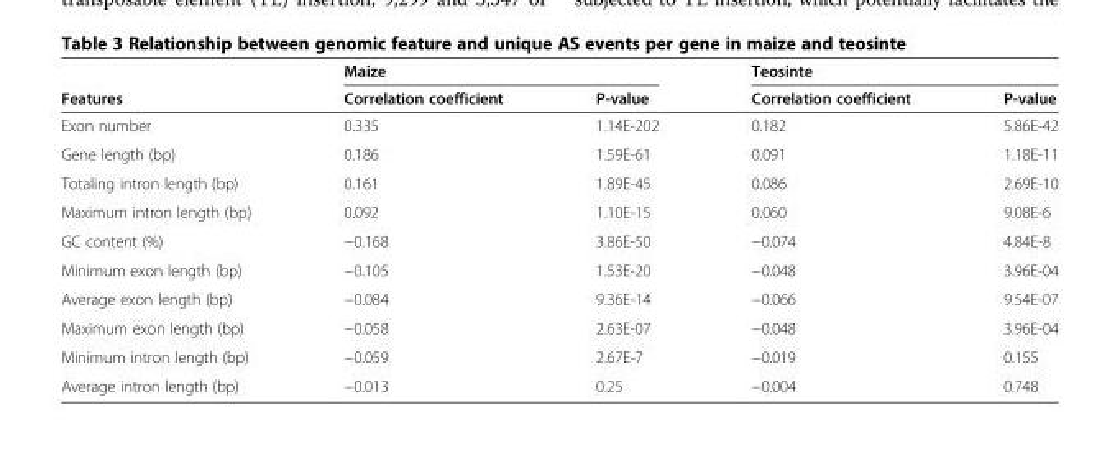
<table><thead><tr><td rowspan="2">Features</td><td colspan="2">Maize</td><td colspan="2">Teosinte</td></tr><tr><td>Correlation coefficient</td><td>P-value</td><td>Correlation coefficient</td><td>P-value</td></tr></thead><tbody><tr><td>Exon number</td><td>0.335</td><td>1.14E-202</td><td>0.182</td><td>5.86E-42</td></tr><tr><td>Gene length (bp)</td><td>0.186</td><td>1.59E-61</td><td>0.091</td><td>1.18E-11</td></tr><tr><td>Totaling intron length (bp)</td><td>0.161</td><td>1.89E-45</td><td>0.086</td><td>2.69E-10</td></tr><tr><td>Maximum intron length (bp)</td><td>0.092</td><td>1.10E-15</td><td>0.060</td><td>9.08E-6</td></tr><tr><td>GC content (%)</td><td>−0.168</td><td>3.86E-50</td><td>−0.074</td><td>4.84E-8</td></tr><tr><td>Minimum exon length (bp)</td><td>−0.105</td><td>1.53E-20</td><td>−0.048</td><td>3.96E-04</td></tr><tr><td>Average exon length (bp)</td><td>−0.084</td><td>9.36E-14</td><td>−0.066</td><td>9.54E-07</td></tr><tr><td>Maximum exon length (bp)</td><td>−0.058</td><td>2.63E-07</td><td>−0.048</td><td>3.96E-04</td></tr><tr><td>Minimum intron length (bp)</td><td>−0.059</td><td>2.67E-7</td><td>−0.019</td><td>0.155</td></tr><tr><td>Average intron length (bp)</td><td>−0.013</td><td>0.25</td><td>−0.004</td><td>0.748</td></tr></tbody></table>